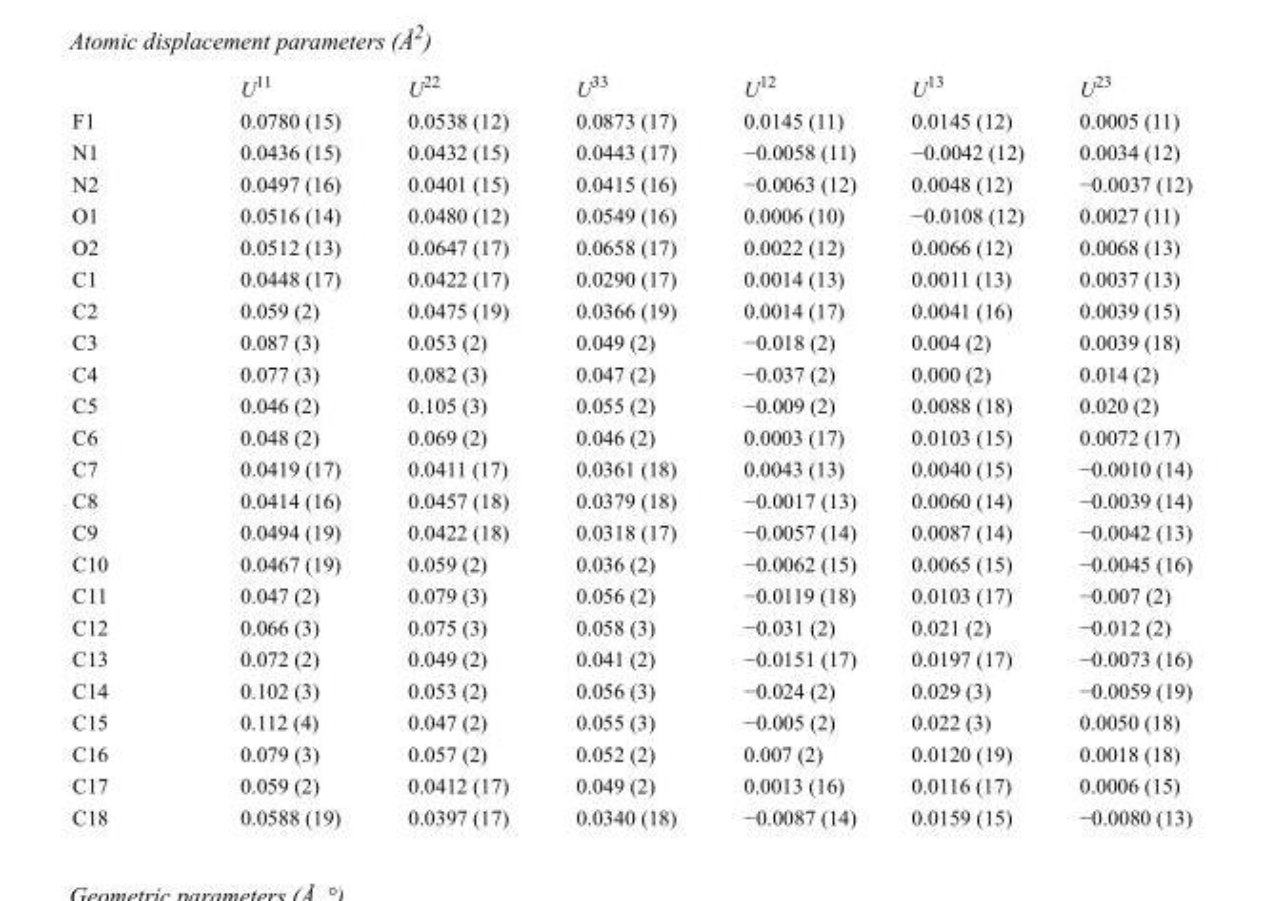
<table><thead><tr><td></td><td>U<sup>11</sup></td><td>U<sup>22</sup></td><td>U<sup>33</sup></td><td>U<sup>12</sup></td><td>U<sup>13</sup></td><td>U<sup>23</sup></td></tr></thead><tbody><tr><td>F1</td><td>0.0780 (15)</td><td>0.0538 (12)</td><td>0.0873 (17)</td><td>0.0145 (11)</td><td>0.0145 (12)</td><td>0.0005 (11)</td></tr><tr><td>N1</td><td>0.0436 (15)</td><td>0.0432 (15)</td><td>0.0443 (17)</td><td>−0.0058 (11)</td><td>−0.0042 (12)</td><td>0.0034 (12)</td></tr><tr><td>N2</td><td>0.0497 (16)</td><td>0.0401 (15)</td><td>0.0415 (16)</td><td>−0.0063 (12)</td><td>0.0048 (12)</td><td>−0.0037 (12)</td></tr><tr><td>O1</td><td>0.0516 (14)</td><td>0.0480 (12)</td><td>0.0549 (16)</td><td>0.0006 (10)</td><td>−0.0108 (12)</td><td>0.0027 (11)</td></tr><tr><td>O2</td><td>0.0512 (13)</td><td>0.0647 (17)</td><td>0.0658 (17)</td><td>0.0022 (12)</td><td>0.0066 (12)</td><td>0.0068 (13)</td></tr><tr><td>C1</td><td>0.0448 (17)</td><td>0.0422 (17)</td><td>0.0290 (17)</td><td>0.0014 (13)</td><td>0.0011 (13)</td><td>0.0037 (13)</td></tr><tr><td>C2</td><td>0.059 (2)</td><td>0.0475 (19)</td><td>0.0366 (19)</td><td>0.0014 (17)</td><td>0.0041 (16)</td><td>0.0039 (15)</td></tr><tr><td>C3</td><td>0.087 (3)</td><td>0.053 (2)</td><td>0.049 (2)</td><td>−0.018 (2)</td><td>0.004 (2)</td><td>0.0039 (18)</td></tr><tr><td>C4</td><td>0.077 (3)</td><td>0.082 (3)</td><td>0.047 (2)</td><td>−0.037 (2)</td><td>0.000 (2)</td><td>0.014 (2)</td></tr><tr><td>C5</td><td>0.046 (2)</td><td>0.105 (3)</td><td>0.055 (2)</td><td>−0.009 (2)</td><td>0.0088 (18)</td><td>0.020 (2)</td></tr><tr><td>C6</td><td>0.048 (2)</td><td>0.069 (2)</td><td>0.046 (2)</td><td>0.0003 (17)</td><td>0.0103 (15)</td><td>0.0072 (17)</td></tr><tr><td>C7</td><td>0.0419 (17)</td><td>0.0411 (17)</td><td>0.0361 (18)</td><td>0.0043 (13)</td><td>0.0040 (15)</td><td>−0.0010 (14)</td></tr><tr><td>C8</td><td>0.0414 (16)</td><td>0.0457 (18)</td><td>0.0379 (18)</td><td>−0.0017 (13)</td><td>0.0060 (14)</td><td>−0.0039 (14)</td></tr><tr><td>C9</td><td>0.0494 (19)</td><td>0.0422 (18)</td><td>0.0318 (17)</td><td>−0.0057 (14)</td><td>0.0087 (14)</td><td>−0.0042 (13)</td></tr><tr><td>C10</td><td>0.0467 (19)</td><td>0.059 (2)</td><td>0.036 (2)</td><td>−0.0062 (15)</td><td>0.0065 (15)</td><td>−0.0045 (16)</td></tr><tr><td>C11</td><td>0.047 (2)</td><td>0.079 (3)</td><td>0.056 (2)</td><td>−0.0119 (18)</td><td>0.0103 (17)</td><td>−0.007 (2)</td></tr><tr><td>C12</td><td>0.066 (3)</td><td>0.075 (3)</td><td>0.058 (3)</td><td>−0.031 (2)</td><td>0.021 (2)</td><td>−0.012 (2)</td></tr><tr><td>C13</td><td>0.072 (2)</td><td>0.049 (2)</td><td>0.041 (2)</td><td>−0.0151 (17)</td><td>0.0197 (17)</td><td>−0.0073 (16)</td></tr><tr><td>C14</td><td>0.102 (3)</td><td>0.053 (2)</td><td>0.056 (3)</td><td>−0.024 (2)</td><td>0.029 (3)</td><td>−0.0059 (19)</td></tr><tr><td>C15</td><td>0.112 (4)</td><td>0.047 (2)</td><td>0.055 (3)</td><td>−0.005 (2)</td><td>0.022 (3)</td><td>0.0050 (18)</td></tr><tr><td>C16</td><td>0.079 (3)</td><td>0.057 (2)</td><td>0.052 (2)</td><td>0.007 (2)</td><td>0.0120 (19)</td><td>0.0018 (18)</td></tr><tr><td>C17</td><td>0.059 (2)</td><td>0.0412 (17)</td><td>0.049 (2)</td><td>0.0013 (16)</td><td>0.0116 (17)</td><td>0.0006 (15)</td></tr><tr><td>C18</td><td>0.0588 (19)</td><td>0.0397 (17)</td><td>0.0340 (18)</td><td>−0.0087 (14)</td><td>0.0159 (15)</td><td>−0.0080 (13)</td></tr></tbody></table>